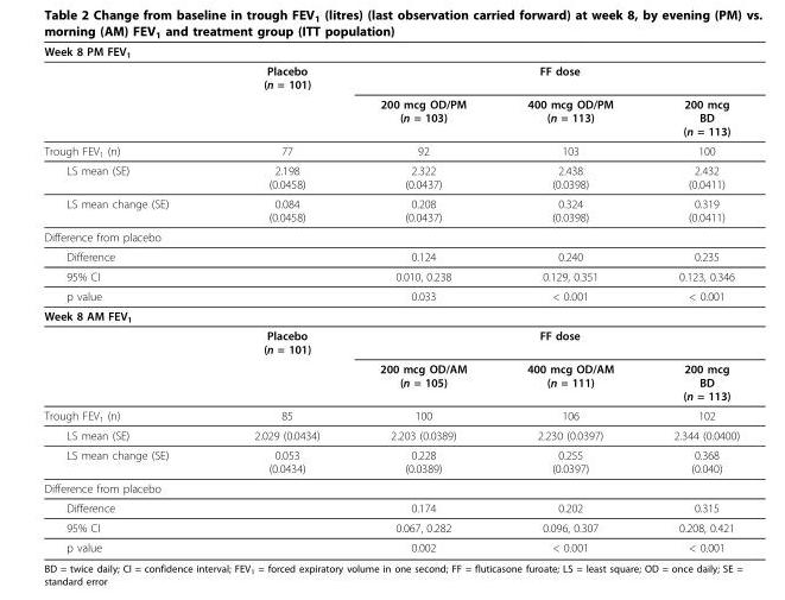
<table><thead><tr><td colspan="5">Week 8 PM FEV1</td></tr><tr><td rowspan="2"></td><td rowspan="2">Placebo (n = 101)</td><td colspan="3">FF dose</td></tr><tr><td>200 mcg OD/PM (n = 103)</td><td>400 mcg OD/PM (n = 113)</td><td>200 mcg BD (n = 113)</td></tr></thead><tbody><tr><td>Trough FEV1 (n)</td><td>77</td><td>92</td><td>103</td><td>100</td></tr><tr><td>LS mean (SE)</td><td>2.198 (0.0458)</td><td>2.322 (0.0437)</td><td>2.438 (0.0398)</td><td>2.432 (0.0411)</td></tr><tr><td>LS mean change (SE)</td><td>0.084 (0.0458)</td><td>0.208 (0.0437)</td><td>0.324 (0.0398)</td><td>0.319 (0.0411)</td></tr><tr><td colspan="5">Difference from placebo</td></tr><tr><td>Difference</td><td></td><td>0.124</td><td>0.240</td><td>0.235</td></tr><tr><td>95% CI</td><td></td><td>0.010, 0.238</td><td>0.129, 0.351</td><td>0.123, 0.346</td></tr><tr><td>p value</td><td></td><td>0.033</td><td>&lt; 0.001</td><td>&lt; 0.001</td></tr><tr><td colspan="5">Week 8 AM FEV1</td></tr><tr><td></td><td>Placebo (n = 101)</td><td colspan="3">FF dose</td></tr><tr><td></td><td></td><td>200 mcg OD/AM (n = 105)</td><td>400 mcg OD/AM (n = 111)</td><td>200 mcg BD (n = 113)</td></tr><tr><td>Trough FEV1 (n)</td><td>85</td><td>100</td><td>106</td><td>102</td></tr><tr><td>LS mean (SE)</td><td>2.029 (0.0434)</td><td>2.203 (0.0389)</td><td>2.230 (0.0397)</td><td>2.344 (0.0400)</td></tr><tr><td>LS mean change (SE)</td><td>0.053 (0.0434)</td><td>0.228 (0.0389)</td><td>0.255 (0.0397)</td><td>0.368 (0.040)</td></tr><tr><td colspan="5">Difference from placebo</td></tr><tr><td>Difference</td><td></td><td>0.174</td><td>0.202</td><td>0.315</td></tr><tr><td>95% CI</td><td></td><td>0.067, 0.282</td><td>0.096, 0.307</td><td>0.208, 0.421</td></tr><tr><td>p value</td><td></td><td>0.002</td><td>&lt; 0.001</td><td>&lt; 0.001</td></tr></tbody></table>